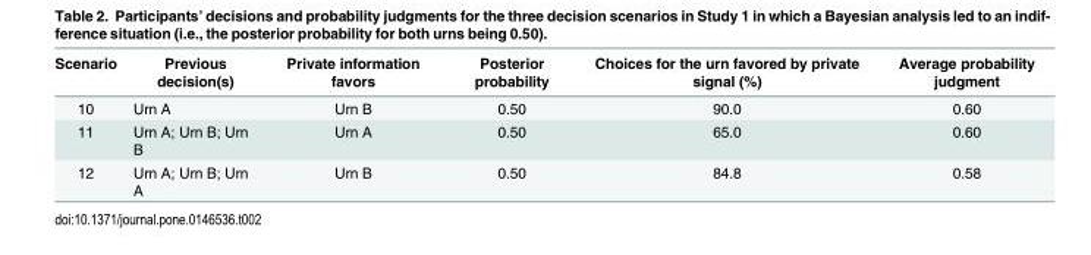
<table><thead><tr><td>Scenario</td><td>Previous decision(s)</td><td>Private information favors</td><td>Posterior probability</td><td>Choices for the urn favored by private signal (%)</td><td>Average probability judgment</td></tr></thead><tbody><tr><td>10</td><td>Urn A</td><td>Urn B</td><td>0.50</td><td>90.0</td><td>0.60</td></tr><tr><td>11</td><td>Urn A; Urn B; Urn B</td><td>Urn A</td><td>0.50</td><td>65.0</td><td>0.60</td></tr><tr><td>12</td><td>Urn A; Urn B; Urn A</td><td>Urn B</td><td>0.50</td><td>84.8</td><td>0.58</td></tr></tbody></table>